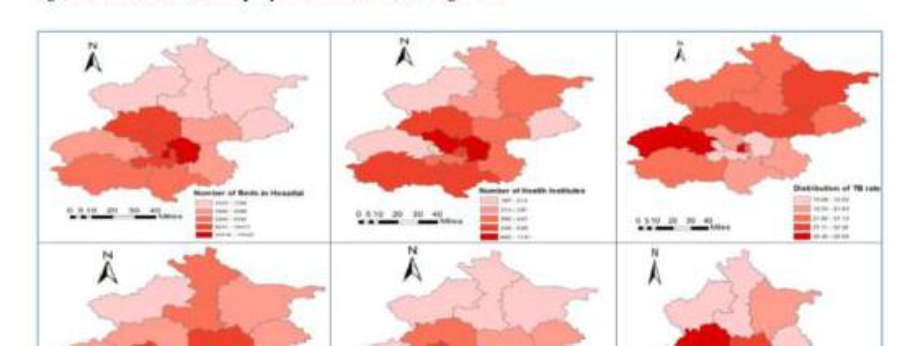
<table><thead><tr><td>Variables</td><td>Min</td><td>Max</td><td>Mean</td><td>Std. Deviation</td><td>Moran’s I</td><td>p-Value</td></tr></thead><tbody><tr><td>Tuberculosis cases (TBC)</td><td>39</td><td>885</td><td>256.37</td><td>183.340</td><td>0.193</td><td>&lt;0.001</td></tr><tr><td>Tuberculosis rate (TBR)</td><td>5.96</td><td>71.78</td><td>25.8218</td><td>12.97541</td><td>−0.010</td><td>0.446</td></tr><tr><td>Number of health institutes (NHI)</td><td>68</td><td>1337</td><td>472.40</td><td>310.911</td><td>0.210</td><td>&lt;0.001</td></tr><tr><td>Number of hospital beds (NHB)</td><td>982</td><td>19,053</td><td>5763.34</td><td>4498.153</td><td>0.422</td><td>&lt;0.001</td></tr><tr><td>Migrant Population (M_P)</td><td>2.0</td><td>180</td><td>38.90</td><td>42.045</td><td>0.264</td><td>&lt;0.001</td></tr><tr><td>Per capita GDP (PC_GDP)</td><td>1.38</td><td>23.44</td><td>5.5224</td><td>4.49726</td><td>0.254</td><td>&lt;0.001</td></tr><tr><td>Population density per 3 km (PD_3)</td><td>0.13</td><td>25.55</td><td>4.9954</td><td>7.35956</td><td>0.439</td><td>&lt;0.001</td></tr><tr><td>Permanent resident ropulation (PRP)</td><td>27.7</td><td>392.2</td><td>117.259</td><td>94.4632</td><td>0.298</td><td>&lt;0.001</td></tr><tr><td>County/district level GDP (C_GDP)</td><td>0.40</td><td>43.37</td><td>7.8275</td><td>9.84348</td><td>0.305</td><td>&lt;0.001</td></tr></tbody></table>